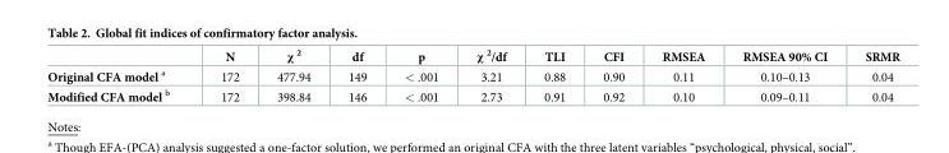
<table><thead><tr><td></td><td>N</td><td>χ <sup>2</sup></td><td>df</td><td>p</td><td>χ <sup>2</sup>/df</td><td>TLI</td><td>CFI</td><td>RMSEA</td><td>RMSEA 90% CI</td><td>SRMR</td></tr></thead><tbody><tr><td>Original CFA model <sup>a</sup></td><td>172</td><td>477.94</td><td>149</td><td>&lt; .001</td><td>3.21</td><td>0.88</td><td>0.90</td><td>0.11</td><td>0.10–0.13</td><td>0.04</td></tr><tr><td>Modified CFA model <sup>b</sup></td><td>172</td><td>398.84</td><td>146</td><td>&lt; .001</td><td>2.73</td><td>0.91</td><td>0.92</td><td>0.10</td><td>0.09–0.11</td><td>0.04</td></tr></tbody></table>